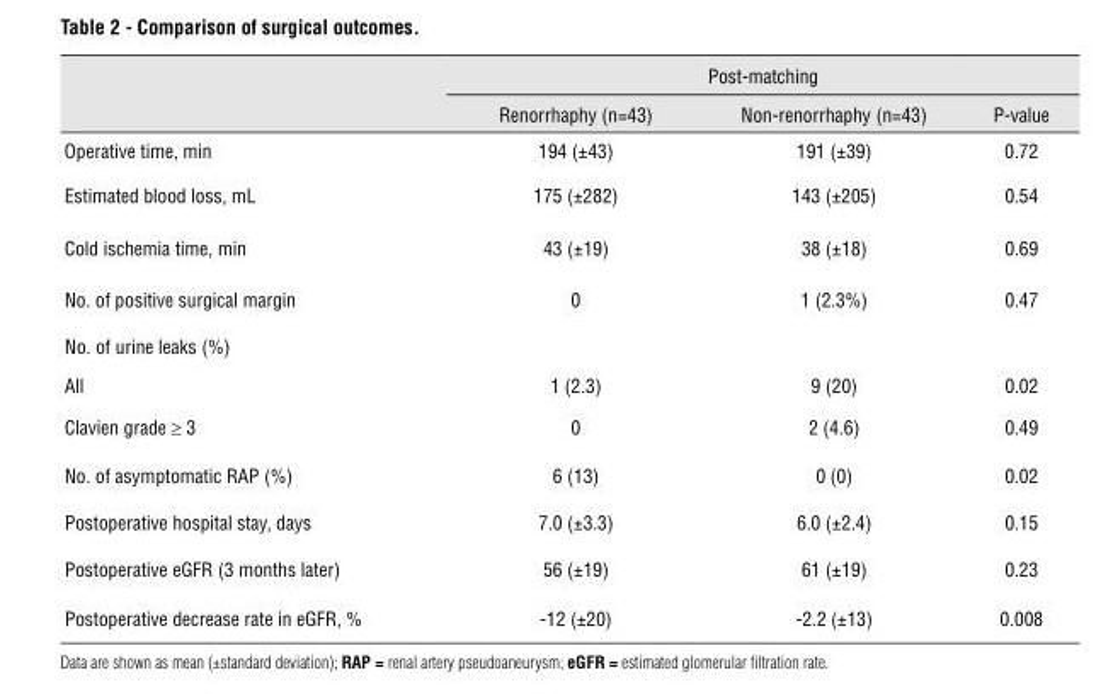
<table><thead><tr><td rowspan="2"></td><td colspan="3">Post-matching</td></tr><tr><td>Renorrhaphy (n=43)</td><td>Non-renorrhaphy (n=43)</td><td>P-value</td></tr></thead><tbody><tr><td>Operative time, min</td><td>194 (±43)</td><td>191 (±39)</td><td>0.72</td></tr><tr><td>Estimated blood loss, mL</td><td>175 (±282)</td><td>143 (±205)</td><td>0.54</td></tr><tr><td>Cold ischemia time, min</td><td>43 (±19)</td><td>38 (±18)</td><td>0.69</td></tr><tr><td>No. of positive surgical margin</td><td>0</td><td>1 (2.3%)</td><td>0.47</td></tr><tr><td colspan="4">No. of urine leaks (%)</td></tr><tr><td>All</td><td>1 (2.3)</td><td>9 (20)</td><td>0.02</td></tr><tr><td>Clavien grade ≥ 3</td><td>0</td><td>2 (4.6)</td><td>0.49</td></tr><tr><td>No. of asymptomatic RAP (%)</td><td>6 (13)</td><td>0 (0)</td><td>0.02</td></tr><tr><td>Postoperative hospital stay, days</td><td>7.0 (±3.3)</td><td>6.0 (±2.4)</td><td>0.15</td></tr><tr><td>Postoperative eGFR (3 months later)</td><td>56 (±19)</td><td>61 (±19)</td><td>0.23</td></tr><tr><td>Postoperative decrease rate in eGFR, %</td><td>-12 (±20)</td><td>-2.2 (±13)</td><td>0.008</td></tr></tbody></table>